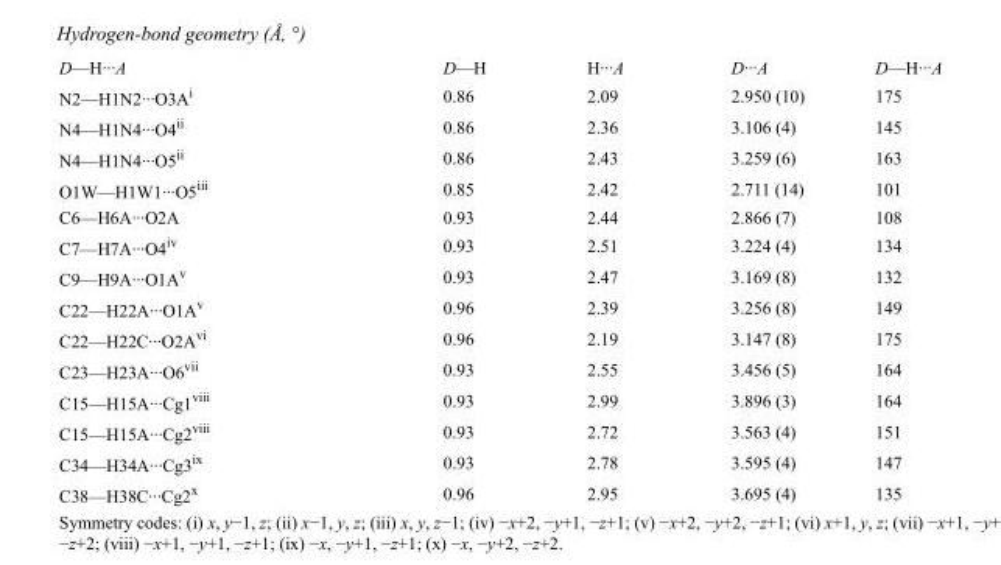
<table><tbody><tr><td>D—H···A</td><td>D—H</td><td>H···A</td><td>D···A</td><td>D—H···A</td></tr><tr><td>N2—H1N2···O3A<sup>i</sup></td><td>0.86</td><td>2.09</td><td>2.950 (10)</td><td>175</td></tr><tr><td>N4—H1N4···O4<sup>ii</sup></td><td>0.86</td><td>2.36</td><td>3.106 (4)</td><td>145</td></tr><tr><td>N4—H1N4···O5<sup>ii</sup></td><td>0.86</td><td>2.43</td><td>3.259 (6)</td><td>163</td></tr><tr><td>O1W—H1W1···O5<sup>iii</sup></td><td>0.85</td><td>2.42</td><td>2.711 (14)</td><td>101</td></tr><tr><td>C6—H6A···O2A</td><td>0.93</td><td>2.44</td><td>2.866 (7)</td><td>108</td></tr><tr><td>C7—H7A···O4<sup>iv</sup></td><td>0.93</td><td>2.51</td><td>3.224 (4)</td><td>134</td></tr><tr><td>C9—H9A···O1A<sup>v</sup></td><td>0.93</td><td>2.47</td><td>3.169 (8)</td><td>132</td></tr><tr><td>C22—H22A···O1A<sup>v</sup></td><td>0.96</td><td>2.39</td><td>3.256 (8)</td><td>149</td></tr><tr><td>C22—H22C···O2A<sup>vi</sup></td><td>0.96</td><td>2.19</td><td>3.147 (8)</td><td>175</td></tr><tr><td>C23—H23A···O6<sup>vii</sup></td><td>0.93</td><td>2.55</td><td>3.456 (5)</td><td>164</td></tr><tr><td>C15—H15A···Cg1<sup>viii</sup></td><td>0.93</td><td>2.99</td><td>3.896 (3)</td><td>164</td></tr><tr><td>C15—H15A···Cg2<sup>viii</sup></td><td>0.93</td><td>2.72</td><td>3.563 (4)</td><td>151</td></tr><tr><td>C34—H34A···Cg3<sup>ix</sup></td><td>0.93</td><td>2.78</td><td>3.595 (4)</td><td>147</td></tr><tr><td>C38—H38C···Cg2<sup>x</sup></td><td>0.96</td><td>2.95</td><td>3.695 (4)</td><td>135</td></tr></tbody></table>